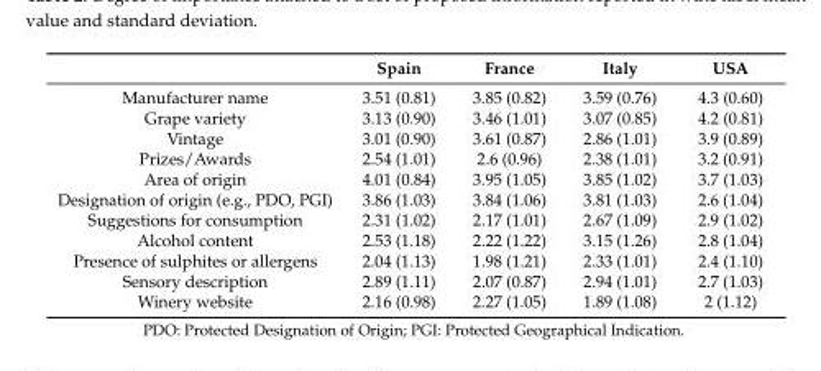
<table><thead><tr><td></td><td>Spain</td><td>France</td><td>Italy</td><td>USA</td></tr></thead><tbody><tr><td>Manufacturer name</td><td>3.51 (0.81)</td><td>3.85 (0.82)</td><td>3.59 (0.76)</td><td>4.3 (0.60)</td></tr><tr><td>Grape variety</td><td>3.13 (0.90)</td><td>3.46 (1.01)</td><td>3.07 (0.85)</td><td>4.2 (0.81)</td></tr><tr><td>Vintage</td><td>3.01 (0.90)</td><td>3.61 (0.87)</td><td>2.86 (1.01)</td><td>3.9 (0.89)</td></tr><tr><td>Prizes/Awards</td><td>2.54 (1.01)</td><td>2.6 (0.96)</td><td>2.38 (1.01)</td><td>3.2 (0.91)</td></tr><tr><td>Area of origin</td><td>4.01 (0.84)</td><td>3.95 (1.05)</td><td>3.85 (1.02)</td><td>3.7 (1.03)</td></tr><tr><td>Designation of origin (e.g., PDO, PGI)</td><td>3.86 (1.03)</td><td>3.84 (1.06)</td><td>3.81 (1.03)</td><td>2.6 (1.04)</td></tr><tr><td>Suggestions for consumption</td><td>2.31 (1.02)</td><td>2.17 (1.01)</td><td>2.67 (1.09)</td><td>2.9 (1.02)</td></tr><tr><td>Alcohol content</td><td>2.53 (1.18)</td><td>2.22 (1.22)</td><td>3.15 (1.26)</td><td>2.8 (1.04)</td></tr><tr><td>Presence of sulphites or allergens</td><td>2.04 (1.13)</td><td>1.98 (1.21)</td><td>2.33 (1.01)</td><td>2.4 (1.10)</td></tr><tr><td>Sensory description</td><td>2.89 (1.11)</td><td>2.07 (0.87)</td><td>2.94 (1.01)</td><td>2.7 (1.03)</td></tr><tr><td>Winery website</td><td>2.16 (0.98)</td><td>2.27 (1.05)</td><td>1.89 (1.08)</td><td>2 (1.12)</td></tr></tbody></table>